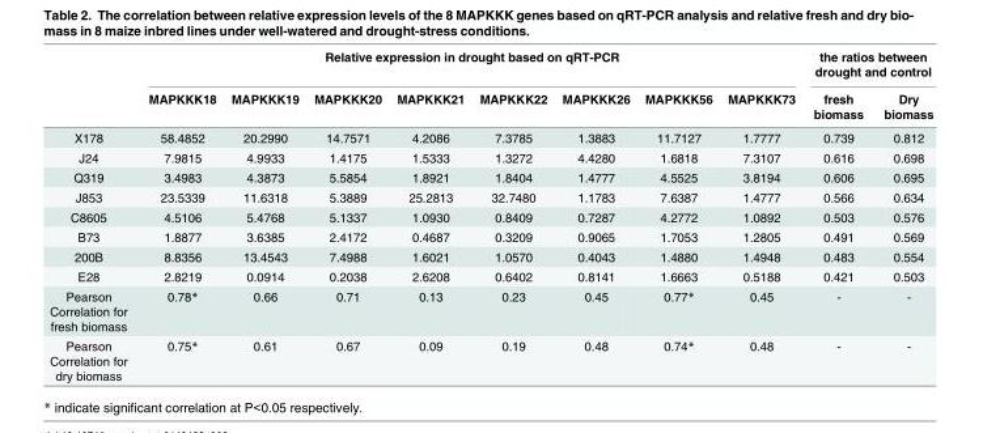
<table><thead><tr><td rowspan="2"></td><td colspan="8">Relative expression in drought based on qRT-PCR</td><td colspan="2">the ratios between drought and control</td></tr><tr><td>MAPKKK18</td><td>MAPKKK19</td><td>MAPKKK20</td><td>MAPKKK21</td><td>MAPKKK22</td><td>MAPKKK26</td><td>MAPKKK56</td><td>MAPKKK73</td><td>fresh biomass</td><td>Dry biomass</td></tr></thead><tbody><tr><td>X178</td><td>58.4852</td><td>20.2990</td><td>14.7571</td><td>4.2086</td><td>7.3785</td><td>1.3883</td><td>11.7127</td><td>1.7777</td><td>0.739</td><td>0.812</td></tr><tr><td>J24</td><td>7.9815</td><td>4.9933</td><td>1.4175</td><td>1.5333</td><td>1.3272</td><td>4.4280</td><td>1.6818</td><td>7.3107</td><td>0.616</td><td>0.698</td></tr><tr><td>Q319</td><td>3.4983</td><td>4.3873</td><td>5.5854</td><td>1.8921</td><td>1.8404</td><td>1.4777</td><td>4.5525</td><td>3.8194</td><td>0.606</td><td>0.695</td></tr><tr><td>J853</td><td>23.5339</td><td>11.6318</td><td>5.3889</td><td>25.2813</td><td>32.7480</td><td>1.1783</td><td>7.6387</td><td>1.4777</td><td>0.566</td><td>0.634</td></tr><tr><td>C8605</td><td>4.5106</td><td>5.4768</td><td>5.1337</td><td>1.0930</td><td>0.8409</td><td>0.7287</td><td>4.2772</td><td>1.0892</td><td>0.503</td><td>0.576</td></tr><tr><td>B73</td><td>1.8877</td><td>3.6385</td><td>2.4172</td><td>0.4687</td><td>0.3209</td><td>0.9065</td><td>1.7053</td><td>1.2805</td><td>0.491</td><td>0.569</td></tr><tr><td>200B</td><td>8.8356</td><td>13.4543</td><td>7.4988</td><td>1.6021</td><td>1.0570</td><td>0.4043</td><td>1.4880</td><td>1.4948</td><td>0.483</td><td>0.554</td></tr><tr><td>E28</td><td>2.8219</td><td>0.0914</td><td>0.2038</td><td>2.6208</td><td>0.6402</td><td>0.8141</td><td>1.6663</td><td>0.5188</td><td>0.421</td><td>0.503</td></tr><tr><td>Pearson Correlation for fresh biomass</td><td>0.78*</td><td>0.66</td><td>0.71</td><td>0.13</td><td>0.23</td><td>0.45</td><td>0.77*</td><td>0.45</td><td>-</td><td>-</td></tr><tr><td>Pearson Correlation for dry biomass</td><td>0.75*</td><td>0.61</td><td>0.67</td><td>0.09</td><td>0.19</td><td>0.48</td><td>0.74*</td><td>0.48</td><td>-</td><td>-</td></tr></tbody></table>